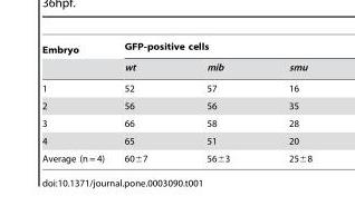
<table><thead><tr><td rowspan="2">Embryo</td><td colspan="3">GFP-positive cells</td></tr><tr><td>wt</td><td>mib</td><td>smu</td></tr></thead><tbody><tr><td>1</td><td>52</td><td>57</td><td>16</td></tr><tr><td>2</td><td>56</td><td>56</td><td>35</td></tr><tr><td>3</td><td>66</td><td>58</td><td>28</td></tr><tr><td>4</td><td>65</td><td>51</td><td>20</td></tr><tr><td>Average (n = 4)</td><td>60±7</td><td>56±3</td><td>25±8</td></tr></tbody></table>